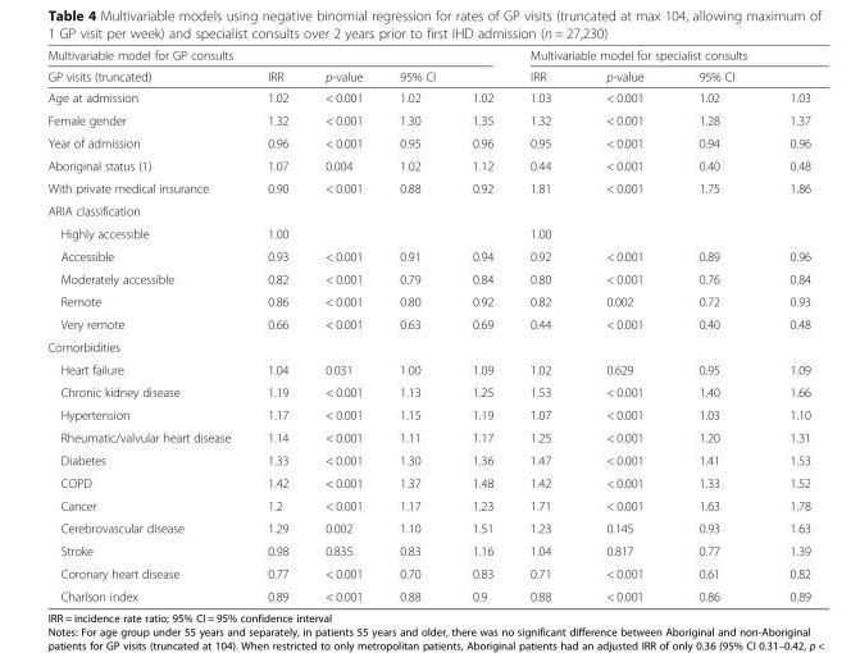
<table><thead><tr><td colspan="5">Multivariable model for GP consults</td><td colspan="4">Multivariable model for specialist consults</td></tr><tr><td>GP visits (truncated)</td><td>IRR</td><td>p-value</td><td>95% CI</td><td></td><td>IRR</td><td>p-value</td><td>95% CI</td><td></td></tr></thead><tbody><tr><td>Age at admission</td><td>1.02</td><td>&lt; 0.001</td><td>1.02</td><td>1.02</td><td>1.03</td><td>&lt; 0.001</td><td>1.02</td><td>1.03</td></tr><tr><td>Female gender</td><td>1.32</td><td>&lt; 0.001</td><td>1.30</td><td>1.35</td><td>1.32</td><td>&lt; 0.001</td><td>1.28</td><td>1.37</td></tr><tr><td>Year of admission</td><td>0.96</td><td>&lt; 0.001</td><td>0.95</td><td>0.96</td><td>0.95</td><td>&lt; 0.001</td><td>0.94</td><td>0.96</td></tr><tr><td>Aboriginal status (1)</td><td>1.07</td><td>0.004</td><td>1.02</td><td>1.12</td><td>0.44</td><td>&lt; 0.001</td><td>0.40</td><td>0.48</td></tr><tr><td>With private medical insurance</td><td>0.90</td><td>&lt; 0.001</td><td>0.88</td><td>0.92</td><td>1.81</td><td>&lt; 0.001</td><td>1.75</td><td>1.86</td></tr><tr><td colspan="9">ARIA classification</td></tr><tr><td>Highly accessible</td><td>1.00</td><td></td><td></td><td></td><td>1.00</td><td></td><td></td><td></td></tr><tr><td>Accessible</td><td>0.93</td><td>&lt; 0.001</td><td>0.91</td><td>0.94</td><td>0.92</td><td>&lt; 0.001</td><td>0.89</td><td>0.96</td></tr><tr><td>Moderately accessible</td><td>0.82</td><td>&lt; 0.001</td><td>0.79</td><td>0.84</td><td>0.80</td><td>&lt; 0.001</td><td>0.76</td><td>0.84</td></tr><tr><td>Remote</td><td>0.86</td><td>&lt; 0.001</td><td>0.80</td><td>0.92</td><td>0.82</td><td>0.002</td><td>0.72</td><td>0.93</td></tr><tr><td>Very remote</td><td>0.66</td><td>&lt; 0.001</td><td>0.63</td><td>0.69</td><td>0.44</td><td>&lt; 0.001</td><td>0.40</td><td>0.48</td></tr><tr><td colspan="9">Comorbidities</td></tr><tr><td>Heart failure</td><td>1.04</td><td>0.031</td><td>1.00</td><td>1.09</td><td>1.02</td><td>0.629</td><td>0.95</td><td>1.09</td></tr><tr><td>Chronic kidney disease</td><td>1.19</td><td>&lt; 0.001</td><td>1.13</td><td>1.25</td><td>1.53</td><td>&lt; 0.001</td><td>1.40</td><td>1.66</td></tr><tr><td>Hypertension</td><td>1.17</td><td>&lt; 0.001</td><td>1.15</td><td>1.19</td><td>1.07</td><td>&lt; 0.001</td><td>1.03</td><td>1.10</td></tr><tr><td>Rheumatic/valvular heart disease</td><td>1.14</td><td>&lt; 0.001</td><td>1.11</td><td>1.17</td><td>1.25</td><td>&lt; 0.001</td><td>1.20</td><td>1.31</td></tr><tr><td>Diabetes</td><td>1.33</td><td>&lt; 0.001</td><td>1.30</td><td>1.36</td><td>1.47</td><td>&lt; 0.001</td><td>1.41</td><td>1.53</td></tr><tr><td>COPD</td><td>1.42</td><td>&lt; 0.001</td><td>1.37</td><td>1.48</td><td>1.42</td><td>&lt; 0.001</td><td>1.33</td><td>1.52</td></tr><tr><td>Cancer</td><td>1.2</td><td>&lt; 0.001</td><td>1.17</td><td>1.23</td><td>1.71</td><td>&lt; 0.001</td><td>1.63</td><td>1.78</td></tr><tr><td>Cerebrovascular disease</td><td>1.29</td><td>0.002</td><td>1.10</td><td>1.51</td><td>1.23</td><td>0.145</td><td>0.93</td><td>1.63</td></tr><tr><td>Stroke</td><td>0.98</td><td>0.835</td><td>0.83</td><td>1.16</td><td>1.04</td><td>0.817</td><td>0.77</td><td>1.39</td></tr><tr><td>Coronary heart disease</td><td>0.77</td><td>&lt; 0.001</td><td>0.70</td><td>0.83</td><td>0.71</td><td>&lt; 0.001</td><td>0.61</td><td>0.82</td></tr><tr><td>Charlson index</td><td>0.89</td><td>&lt; 0.001</td><td>0.88</td><td>0.9</td><td>0.88</td><td>&lt; 0.001</td><td>0.86</td><td>0.89</td></tr></tbody></table>